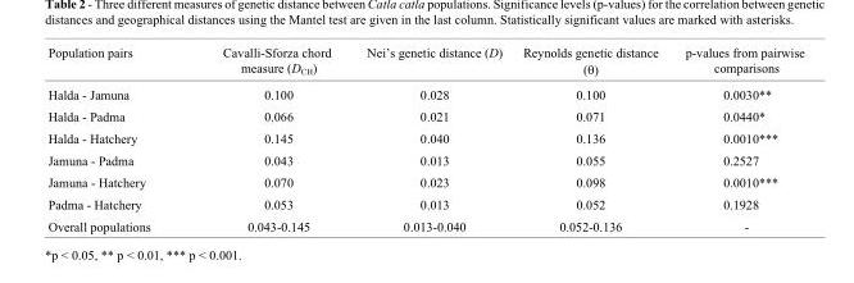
<table><thead><tr><td>Population pairs</td><td>Cavalli-Sforza chord measure (D<sub>CH</sub>)</td><td>Nei’s genetic distance (D)</td><td>Reynolds genetic distance (θ)</td><td>p-values from pairwise comparisons</td></tr></thead><tbody><tr><td>Halda - Jamuna</td><td>0.100</td><td>0.028</td><td>0.100</td><td>0.0030**</td></tr><tr><td>Halda - Padma</td><td>0.066</td><td>0.021</td><td>0.071</td><td>0.0440*</td></tr><tr><td>Halda - Hatchery</td><td>0.145</td><td>0.040</td><td>0.136</td><td>0.0010***</td></tr><tr><td>Jamuna - Padma</td><td>0.043</td><td>0.013</td><td>0.055</td><td>0.2527</td></tr><tr><td>Jamuna - Hatchery</td><td>0.070</td><td>0.023</td><td>0.098</td><td>0.0010***</td></tr><tr><td>Padma - Hatchery</td><td>0.053</td><td>0.013</td><td>0.052</td><td>0.1928</td></tr><tr><td>Overall populations</td><td>0.043-0.145</td><td>0.013-0.040</td><td>0.052-0.136</td><td>-</td></tr></tbody></table>